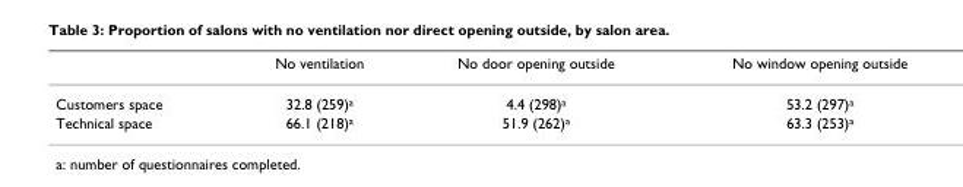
<table><thead><tr><td></td><td>No ventilation</td><td>No door opening outside</td><td>No window opening outside</td></tr></thead><tbody><tr><td>Customers space</td><td>32.8 (259)<sup>a</sup></td><td>4.4 (298)<sup>a</sup></td><td>53.2 (297)<sup>a</sup></td></tr><tr><td>Technical space</td><td>66.1 (218)<sup>a</sup></td><td>51.9 (262)<sup>a</sup></td><td>63.3 (253)<sup>a</sup></td></tr></tbody></table>